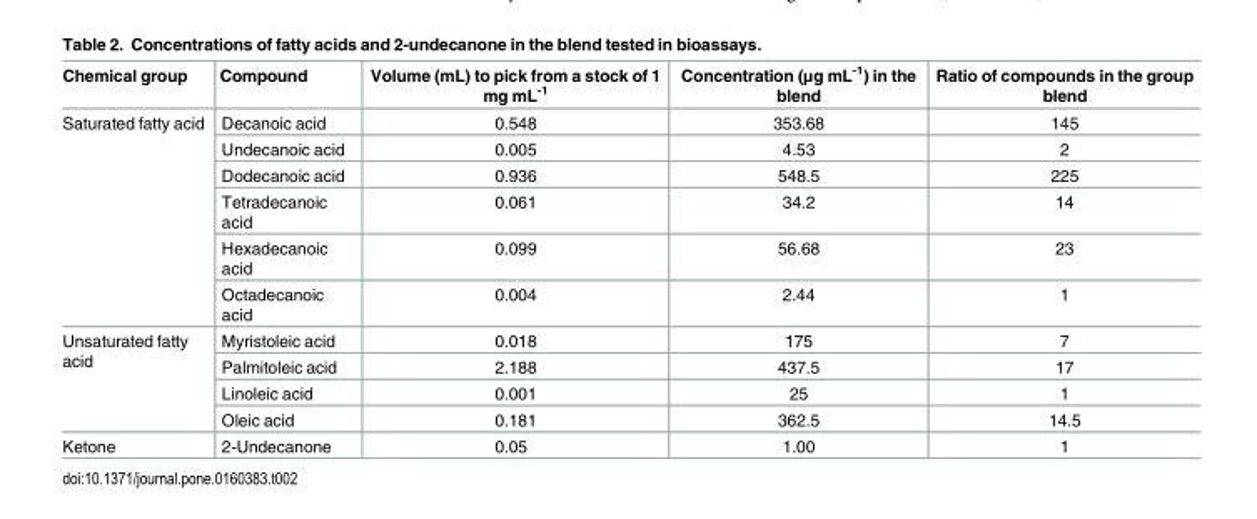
<table><thead><tr><td>Chemical group</td><td>Compound</td><td>Volume (mL) to pick from a stock of 1 mg mL<sup>-1</sup></td><td>Concentration (μg mL<sup>-1</sup>) in the blend</td><td>Ratio of compounds in the group blend</td></tr></thead><tbody><tr><td rowspan="6">Saturated fatty acid</td><td>Decanoic acid</td><td>0.548</td><td>353.68</td><td>145</td></tr><tr><td>Undecanoic acid</td><td>0.005</td><td>4.53</td><td>2</td></tr><tr><td>Dodecanoic acid</td><td>0.936</td><td>548.5</td><td>225</td></tr><tr><td>Tetradecanoic acid</td><td>0.061</td><td>34.2</td><td>14</td></tr><tr><td>Hexadecanoic acid</td><td>0.099</td><td>56.68</td><td>23</td></tr><tr><td>Octadecanoic acid</td><td>0.004</td><td>2.44</td><td>1</td></tr><tr><td rowspan="4">Unsaturated fatty acid</td><td>Myristoleic acid</td><td>0.018</td><td>175</td><td>7</td></tr><tr><td>Palmitoleic acid</td><td>2.188</td><td>437.5</td><td>17</td></tr><tr><td>Linoleic acid</td><td>0.001</td><td>25</td><td>1</td></tr><tr><td>Oleic acid</td><td>0.181</td><td>362.5</td><td>14.5</td></tr><tr><td>Ketone</td><td>2-Undecanone</td><td>0.05</td><td>1.00</td><td>1</td></tr></tbody></table>